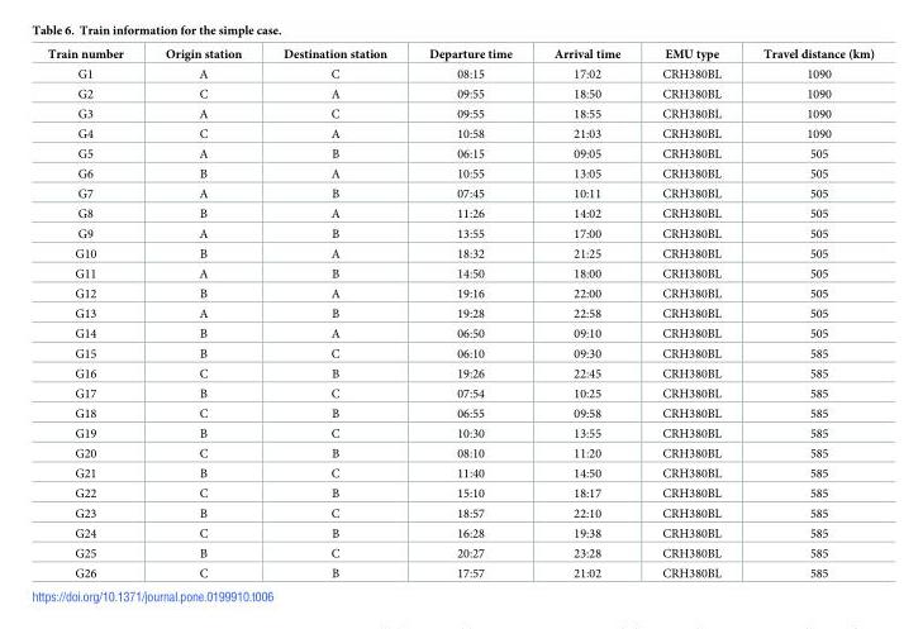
<table><thead><tr><td>Train number</td><td>Origin station</td><td>Destination station</td><td>Departure time</td><td>Arrival time</td><td>EMU type</td><td>Travel distance (km)</td></tr></thead><tbody><tr><td>G1</td><td>A</td><td>C</td><td>08:15</td><td>17:02</td><td>CRH380BL</td><td>1090</td></tr><tr><td>G2</td><td>C</td><td>A</td><td>09:55</td><td>18:50</td><td>CRH380BL</td><td>1090</td></tr><tr><td>G3</td><td>A</td><td>C</td><td>09:55</td><td>18:55</td><td>CRH380BL</td><td>1090</td></tr><tr><td>G4</td><td>C</td><td>A</td><td>10:58</td><td>21:03</td><td>CRH380BL</td><td>1090</td></tr><tr><td>G5</td><td>A</td><td>B</td><td>06:15</td><td>09:05</td><td>CRH380BL</td><td>505</td></tr><tr><td>G6</td><td>B</td><td>A</td><td>10:55</td><td>13:05</td><td>CRH380BL</td><td>505</td></tr><tr><td>G7</td><td>A</td><td>B</td><td>07:45</td><td>10:11</td><td>CRH380BL</td><td>505</td></tr><tr><td>G8</td><td>B</td><td>A</td><td>11:26</td><td>14:02</td><td>CRH380BL</td><td>505</td></tr><tr><td>G9</td><td>A</td><td>B</td><td>13:55</td><td>17:00</td><td>CRH380BL</td><td>505</td></tr><tr><td>G10</td><td>B</td><td>A</td><td>18:32</td><td>21:25</td><td>CRH380BL</td><td>505</td></tr><tr><td>G11</td><td>A</td><td>B</td><td>14:50</td><td>18:00</td><td>CRH380BL</td><td>505</td></tr><tr><td>G12</td><td>B</td><td>A</td><td>19:16</td><td>22:00</td><td>CRH380BL</td><td>505</td></tr><tr><td>G13</td><td>A</td><td>B</td><td>19:28</td><td>22:58</td><td>CRH380BL</td><td>505</td></tr><tr><td>G14</td><td>B</td><td>A</td><td>06:50</td><td>09:10</td><td>CRH380BL</td><td>505</td></tr><tr><td>G15</td><td>B</td><td>C</td><td>06:10</td><td>09:30</td><td>CRH380BL</td><td>585</td></tr><tr><td>G16</td><td>C</td><td>B</td><td>19:26</td><td>22:45</td><td>CRH380BL</td><td>585</td></tr><tr><td>G17</td><td>B</td><td>C</td><td>07:54</td><td>10:25</td><td>CRH380BL</td><td>585</td></tr><tr><td>G18</td><td>C</td><td>B</td><td>06:55</td><td>09:58</td><td>CRH380BL</td><td>585</td></tr><tr><td>G19</td><td>B</td><td>C</td><td>10:30</td><td>13:55</td><td>CRH380BL</td><td>585</td></tr><tr><td>G20</td><td>C</td><td>B</td><td>08:10</td><td>11:20</td><td>CRH380BL</td><td>585</td></tr><tr><td>G21</td><td>B</td><td>C</td><td>11:40</td><td>14:50</td><td>CRH380BL</td><td>585</td></tr><tr><td>G22</td><td>C</td><td>B</td><td>15:10</td><td>18:17</td><td>CRH380BL</td><td>585</td></tr><tr><td>G23</td><td>B</td><td>C</td><td>18:57</td><td>22:10</td><td>CRH380BL</td><td>585</td></tr><tr><td>G24</td><td>C</td><td>B</td><td>16:28</td><td>19:38</td><td>CRH380BL</td><td>585</td></tr><tr><td>G25</td><td>B</td><td>C</td><td>20:27</td><td>23:28</td><td>CRH380BL</td><td>585</td></tr><tr><td>G26</td><td>C</td><td>B</td><td>17:57</td><td>21:02</td><td>CRH380BL</td><td>585</td></tr></tbody></table>